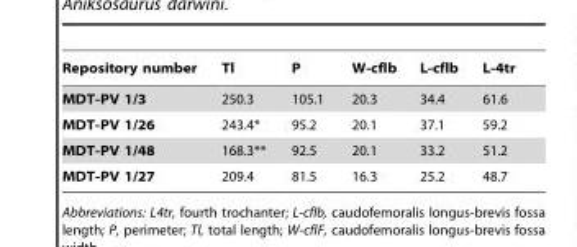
<table><thead><tr><td>Repository number</td><td>Tl</td><td>P</td><td>W-cflb</td><td>L-cflb</td><td>L-4tr</td></tr></thead><tbody><tr><td>MDT-PV 1/3</td><td>250.3</td><td>105.1</td><td>20.3</td><td>34.4</td><td>61.6</td></tr><tr><td>MDT-PV 1/26</td><td>243.4*</td><td>95.2</td><td>20.1</td><td>37.1</td><td>59.2</td></tr><tr><td>MDT-PV 1/48</td><td>168.3**</td><td>92.5</td><td>20.1</td><td>33.2</td><td>51.2</td></tr><tr><td>MDT-PV 1/27</td><td>209.4</td><td>81.5</td><td>16.3</td><td>25.2</td><td>48.7</td></tr></tbody></table>